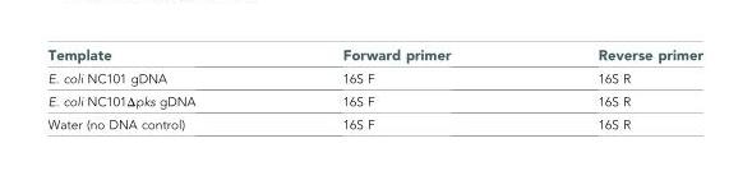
<table><thead><tr><td>Template</td><td>Forward primer</td><td>Reverse primer</td></tr></thead><tbody><tr><td>E. coli NC101 gDNA</td><td>16S F</td><td>16S R</td></tr><tr><td>E. coli NC101Δpks gDNA</td><td>16S F</td><td>16S R</td></tr><tr><td>Water (no DNA control)</td><td>16S F</td><td>16S R</td></tr></tbody></table>